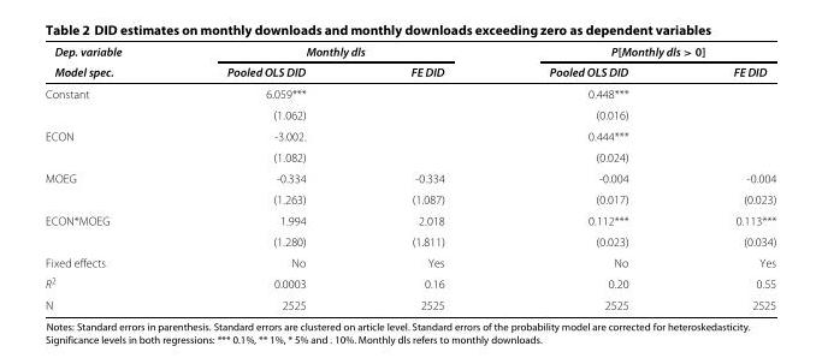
<table><thead><tr><td rowspan="2">Dep. variable Model spec.</td><td colspan="2">Monthly dls</td><td colspan="2">P[Monthly dls &gt; 0]</td></tr><tr><td>Pooled OLS DID</td><td>FE DID</td><td>Pooled OLS DID</td><td>FE DID</td></tr></thead><tbody><tr><td rowspan="2">Constant</td><td>6.059***</td><td></td><td>0.448***</td><td></td></tr><tr><td>(1.062)</td><td></td><td>(0.016)</td><td></td></tr><tr><td rowspan="2">ECON</td><td>-3.002.</td><td></td><td>0.444***</td><td></td></tr><tr><td>(1.082)</td><td></td><td>(0.024)</td><td></td></tr><tr><td rowspan="2">MOEG</td><td>-0.334</td><td>-0.334</td><td>-0.004</td><td>-0.004</td></tr><tr><td>(1.263)</td><td>(1.087)</td><td>(0.017)</td><td>(0.023)</td></tr><tr><td rowspan="2">ECON*MOEG</td><td>1.994</td><td>2.018</td><td>0.112***</td><td>0.113***</td></tr><tr><td>(1.280)</td><td>(1.811)</td><td>(0.023)</td><td>(0.034)</td></tr><tr><td>Fixed effects</td><td>No</td><td>Yes</td><td>No</td><td>Yes</td></tr><tr><td>R<sup>2</sup></td><td>0.0003</td><td>0.16</td><td>0.20</td><td>0.55</td></tr><tr><td>N</td><td>2525</td><td>2525</td><td>2525</td><td>2525</td></tr></tbody></table>